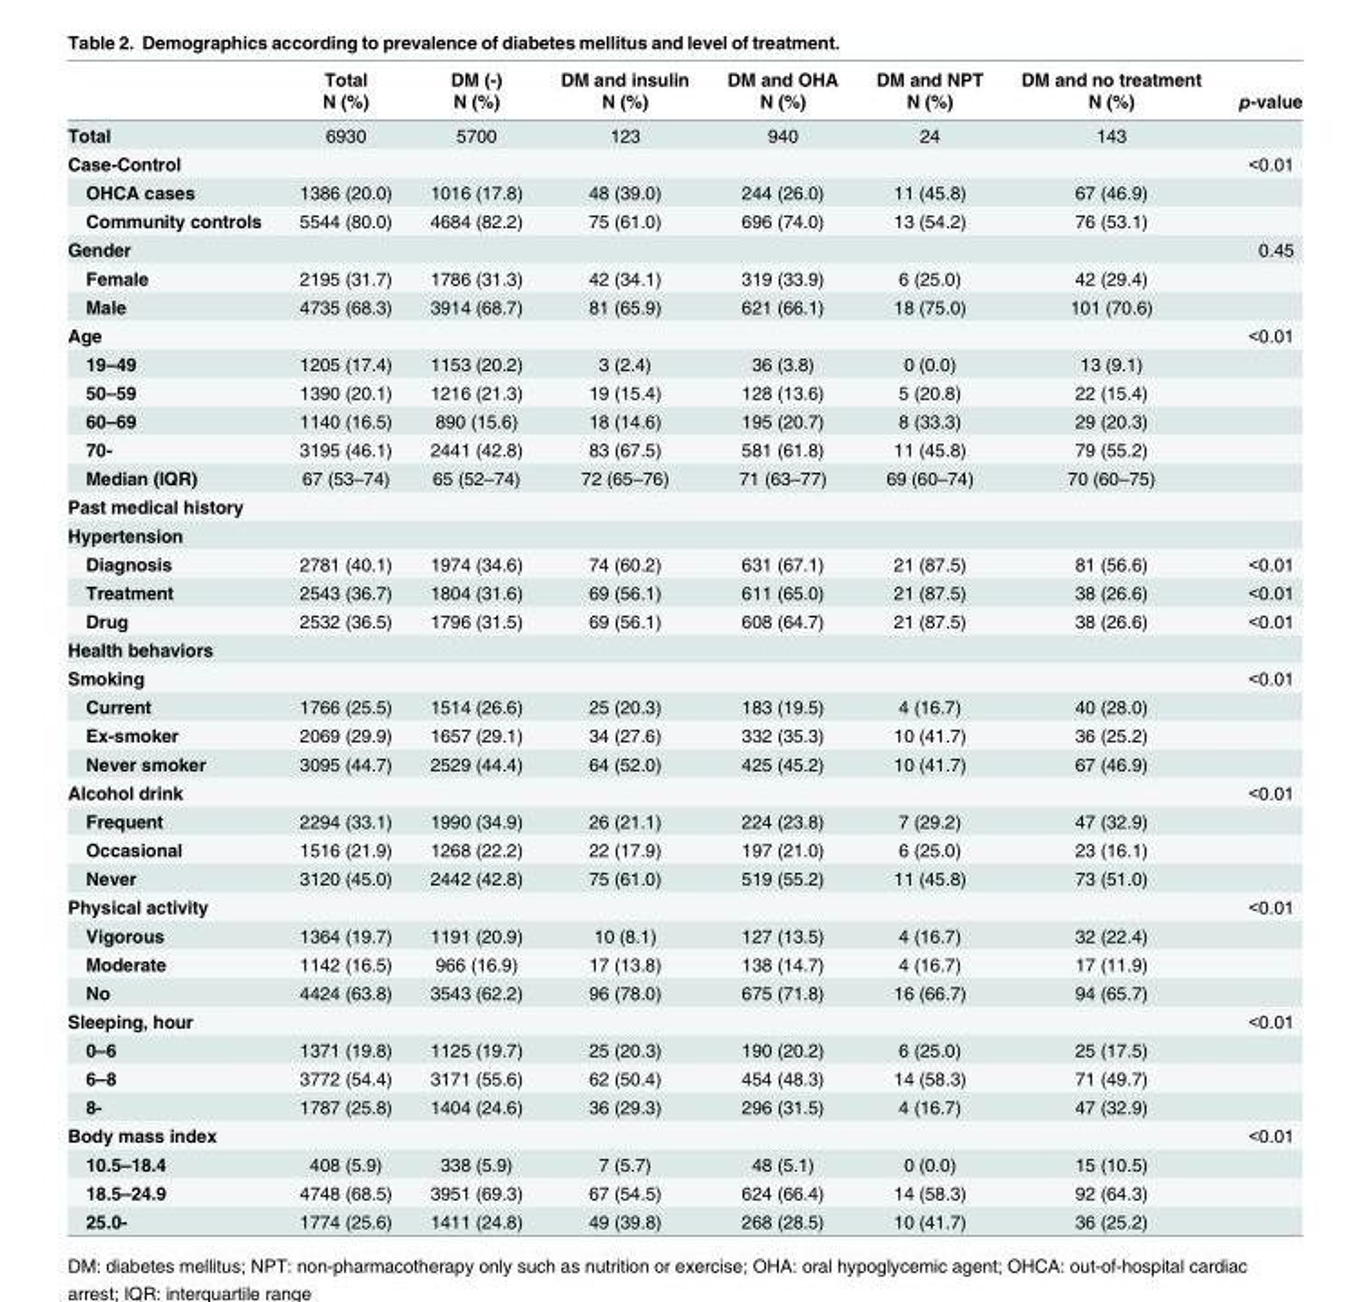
<table><thead><tr><td rowspan="2"></td><td rowspan="2">Total N (%)</td><td rowspan="2">DM (-) N (%)</td><td rowspan="2">DM and insulin N (%)</td><td rowspan="2">DM and OHA N (%)</td><td rowspan="2">DM and NPT N (%)</td><td rowspan="2">DM and no treatment N (%)</td><td rowspan="2">p-value</td></tr><tr></tr></thead><tbody><tr><td>Total</td><td>6930</td><td>5700</td><td>123</td><td>940</td><td>24</td><td>143</td><td></td></tr><tr><td>Case-Control</td><td></td><td></td><td></td><td></td><td></td><td></td><td>&lt;0.01</td></tr><tr><td>OHCA cases</td><td>1386 (20.0)</td><td>1016 (17.8)</td><td>48 (39.0)</td><td>244 (26.0)</td><td>11 (45.8)</td><td>67 (46.9)</td><td></td></tr><tr><td>Community controls</td><td>5544 (80.0)</td><td>4684 (82.2)</td><td>75 (61.0)</td><td>696 (74.0)</td><td>13 (54.2)</td><td>76 (53.1)</td><td></td></tr><tr><td>Gender</td><td></td><td></td><td></td><td></td><td></td><td></td><td>0.45</td></tr><tr><td>Female</td><td>2195 (31.7)</td><td>1786 (31.3)</td><td>42 (34.1)</td><td>319 (33.9)</td><td>6 (25.0)</td><td>42 (29.4)</td><td></td></tr><tr><td>Male</td><td>4735 (68.3)</td><td>3914 (68.7)</td><td>81 (65.9)</td><td>621 (66.1)</td><td>18 (75.0)</td><td>101 (70.6)</td><td></td></tr><tr><td>Age</td><td></td><td></td><td></td><td></td><td></td><td></td><td>&lt;0.01</td></tr><tr><td>19–49</td><td>1205 (17.4)</td><td>1153 (20.2)</td><td>3 (2.4)</td><td>36 (3.8)</td><td>0 (0.0)</td><td>13 (9.1)</td><td></td></tr><tr><td>50–59</td><td>1390 (20.1)</td><td>1216 (21.3)</td><td>19 (15.4)</td><td>128 (13.6)</td><td>5 (20.8)</td><td>22 (15.4)</td><td></td></tr><tr><td>60–69</td><td>1140 (16.5)</td><td>890 (15.6)</td><td>18 (14.6)</td><td>195 (20.7)</td><td>8 (33.3)</td><td>29 (20.3)</td><td></td></tr><tr><td>70-</td><td>3195 (46.1)</td><td>2441 (42.8)</td><td>83 (67.5)</td><td>581 (61.8)</td><td>11 (45.8)</td><td>79 (55.2)</td><td></td></tr><tr><td>Median (IQR)</td><td>67 (53–74)</td><td>65 (52–74)</td><td>72 (65–76)</td><td>71 (63–77)</td><td>69 (60–74)</td><td>70 (60–75)</td><td></td></tr><tr><td colspan="8">Past medical history</td></tr><tr><td colspan="8">Hypertension</td></tr><tr><td>Diagnosis</td><td>2781 (40.1)</td><td>1974 (34.6)</td><td>74 (60.2)</td><td>631 (67.1)</td><td>21 (87.5)</td><td>81 (56.6)</td><td>&lt;0.01</td></tr><tr><td>Treatment</td><td>2543 (36.7)</td><td>1804 (31.6)</td><td>69 (56.1)</td><td>611 (65.0)</td><td>21 (87.5)</td><td>38 (26.6)</td><td>&lt;0.01</td></tr><tr><td>Drug</td><td>2532 (36.5)</td><td>1796 (31.5)</td><td>69 (56.1)</td><td>608 (64.7)</td><td>21 (87.5)</td><td>38 (26.6)</td><td>&lt;0.01</td></tr><tr><td colspan="8">Health behaviors</td></tr><tr><td>Smoking</td><td></td><td></td><td></td><td></td><td></td><td></td><td>&lt;0.01</td></tr><tr><td>Current</td><td>1766 (25.5)</td><td>1514 (26.6)</td><td>25 (20.3)</td><td>183 (19.5)</td><td>4 (16.7)</td><td>40 (28.0)</td><td></td></tr><tr><td>Ex-smoker</td><td>2069 (29.9)</td><td>1657 (29.1)</td><td>34 (27.6)</td><td>332 (35.3)</td><td>10 (41.7)</td><td>36 (25.2)</td><td></td></tr><tr><td>Never smoker</td><td>3095 (44.7)</td><td>2529 (44.4)</td><td>64 (52.0)</td><td>425 (45.2)</td><td>10 (41.7)</td><td>67 (46.9)</td><td></td></tr><tr><td>Alcohol drink</td><td></td><td></td><td></td><td></td><td></td><td></td><td>&lt;0.01</td></tr><tr><td>Frequent</td><td>2294 (33.1)</td><td>1990 (34.9)</td><td>26 (21.1)</td><td>224 (23.8)</td><td>7 (29.2)</td><td>47 (32.9)</td><td></td></tr><tr><td>Occasional</td><td>1516 (21.9)</td><td>1268 (22.2)</td><td>22 (17.9)</td><td>197 (21.0)</td><td>6 (25.0)</td><td>23 (16.1)</td><td></td></tr><tr><td>Never</td><td>3120 (45.0)</td><td>2442 (42.8)</td><td>75 (61.0)</td><td>519 (55.2)</td><td>11 (45.8)</td><td>73 (51.0)</td><td></td></tr><tr><td>Physical activity</td><td></td><td></td><td></td><td></td><td></td><td></td><td>&lt;0.01</td></tr><tr><td>Vigorous</td><td>1364 (19.7)</td><td>1191 (20.9)</td><td>10 (8.1)</td><td>127 (13.5)</td><td>4 (16.7)</td><td>32 (22.4)</td><td></td></tr><tr><td>Moderate</td><td>1142 (16.5)</td><td>966 (16.9)</td><td>17 (13.8)</td><td>138 (14.7)</td><td>4 (16.7)</td><td>17 (11.9)</td><td></td></tr><tr><td>No</td><td>4424 (63.8)</td><td>3543 (62.2)</td><td>96 (78.0)</td><td>675 (71.8)</td><td>16 (66.7)</td><td>94 (65.7)</td><td></td></tr><tr><td>Sleeping, hour</td><td></td><td></td><td></td><td></td><td></td><td></td><td>&lt;0.01</td></tr><tr><td>0–6</td><td>1371 (19.8)</td><td>1125 (19.7)</td><td>25 (20.3)</td><td>190 (20.2)</td><td>6 (25.0)</td><td>25 (17.5)</td><td></td></tr><tr><td>6–8</td><td>3772 (54.4)</td><td>3171 (55.6)</td><td>62 (50.4)</td><td>454 (48.3)</td><td>14 (58.3)</td><td>71 (49.7)</td><td></td></tr><tr><td>8-</td><td>1787 (25.8)</td><td>1404 (24.6)</td><td>36 (29.3)</td><td>296 (31.5)</td><td>4 (16.7)</td><td>47 (32.9)</td><td></td></tr><tr><td>Body mass index</td><td></td><td></td><td></td><td></td><td></td><td></td><td>&lt;0.01</td></tr><tr><td>10.5–18.4</td><td>408 (5.9)</td><td>338 (5.9)</td><td>7 (5.7)</td><td>48 (5.1)</td><td>0 (0.0)</td><td>15 (10.5)</td><td></td></tr><tr><td>18.5–24.9</td><td>4748 (68.5)</td><td>3951 (69.3)</td><td>67 (54.5)</td><td>624 (66.4)</td><td>14 (58.3)</td><td>92 (64.3)</td><td></td></tr><tr><td>25.0-</td><td>1774 (25.6)</td><td>1411 (24.8)</td><td>49 (39.8)</td><td>268 (28.5)</td><td>10 (41.7)</td><td>36 (25.2)</td><td></td></tr></tbody></table>